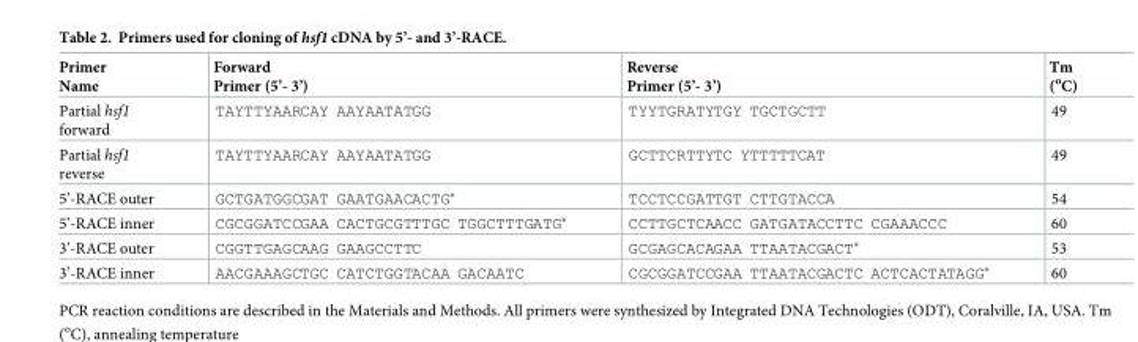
<table><thead><tr><td>Primer Name</td><td>Forward Primer (5’- 3’)</td><td>Reverse Primer (5’- 3’)</td><td>Tm (<sup>o</sup>C)</td></tr></thead><tbody><tr><td>Partial hsf1 forward</td><td>TAYTTYAARCAY AAYAATATGG</td><td>TYYTGRATYTGY TGCTGCTT</td><td>49</td></tr><tr><td>Partial hsf1 reverse</td><td>TAYTTYAARCAY AAYAATATGG</td><td>GCTTCRTTYTC YTTTTTCAT</td><td>49</td></tr><tr><td>5’-RACE outer</td><td>GCTGATGGCGAT GAATGAACACTG*</td><td>TCCTCCGATTGT CTTGTACCA</td><td>54</td></tr><tr><td>5’-RACE inner</td><td>CGCGGATCCGAA CACTGCGTTTGC TGGCTTTGATG*</td><td>CCTTGCTCAACC GATGATACCTTC CGAAACCC</td><td>60</td></tr><tr><td>3’-RACE outer</td><td>CGGTTGAGCAAG GAAGCCTTC</td><td>GCGAGCACAGAA TTAATACGACT*</td><td>53</td></tr><tr><td>3’-RACE inner</td><td>AACGAAAGCTGC CATCTGGTACAA GACAATC</td><td>CGCGGATCCGAA TTAATACGACTC ACTCACTATAGG*</td><td>60</td></tr></tbody></table>